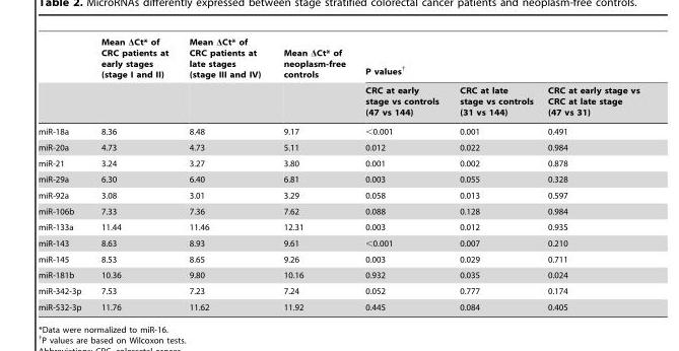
<table><thead><tr><td rowspan="2"></td><td rowspan="2">Mean ΔCt* of CRC patients at early stages (stage I and II)</td><td rowspan="2">Mean ΔCt* of CRC patients at late stages (stage III and IV)</td><td rowspan="2">Mean ΔCt* of neoplasm-free controls</td><td colspan="3">P values†</td></tr><tr><td>CRC at early stage vs controls (47 vs 144)</td><td>CRC at late stage vs controls (31 vs 144)</td><td>CRC at early stage vs CRC at late stage (47 vs 31)</td></tr></thead><tbody><tr><td>miR-18a</td><td>8.36</td><td>8.48</td><td>9.17</td><td>&lt;0.001</td><td>0.001</td><td>0.491</td></tr><tr><td>miR-20a</td><td>4.73</td><td>4.73</td><td>5.11</td><td>0.012</td><td>0.022</td><td>0.984</td></tr><tr><td>miR-21</td><td>3.24</td><td>3.27</td><td>3.80</td><td>0.001</td><td>0.002</td><td>0.878</td></tr><tr><td>miR-29a</td><td>6.30</td><td>6.40</td><td>6.81</td><td>0.003</td><td>0.055</td><td>0.328</td></tr><tr><td>miR-92a</td><td>3.08</td><td>3.01</td><td>3.29</td><td>0.058</td><td>0.013</td><td>0.597</td></tr><tr><td>miR-106b</td><td>7.33</td><td>7.36</td><td>7.62</td><td>0.088</td><td>0.128</td><td>0.984</td></tr><tr><td>miR-133a</td><td>11.44</td><td>11.46</td><td>12.31</td><td>0.003</td><td>0.012</td><td>0.935</td></tr><tr><td>miR-143</td><td>8.63</td><td>8.93</td><td>9.61</td><td>&lt;0.001</td><td>0.007</td><td>0.210</td></tr><tr><td>miR-145</td><td>8.53</td><td>8.65</td><td>9.26</td><td>0.003</td><td>0.029</td><td>0.711</td></tr><tr><td>miR-181b</td><td>10.36</td><td>9.80</td><td>10.16</td><td>0.932</td><td>0.035</td><td>0.024</td></tr><tr><td>miR-342-3p</td><td>7.53</td><td>7.23</td><td>7.24</td><td>0.052</td><td>0.777</td><td>0.174</td></tr><tr><td>miR-532-3p</td><td>11.76</td><td>11.62</td><td>11.92</td><td>0.445</td><td>0.084</td><td>0.405</td></tr></tbody></table>